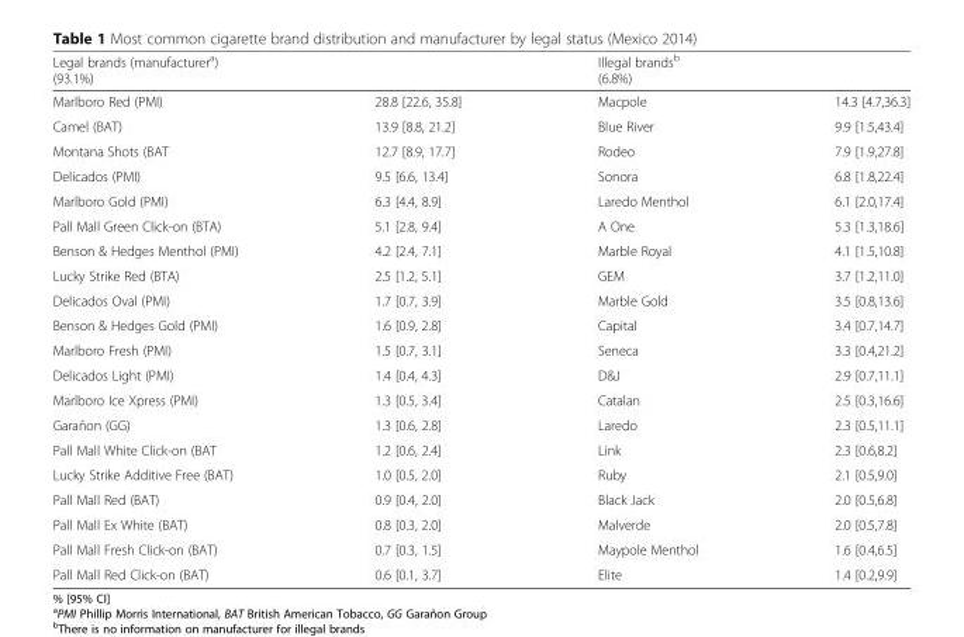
<table><thead><tr><td colspan="2">Legal brands (manufacturer<sup>a</sup>) (93.1%)</td><td colspan="2">Illegal brands<sup>b</sup> (6.8%)</td></tr><tr><td>Marlboro Red (PMI)</td><td>28.8 [22.6, 35.8]</td><td>Macpole</td><td>14.3 [4.7,36.3]</td></tr></thead><tbody><tr><td>Camel (BAT)</td><td>13.9 [8.8, 21.2]</td><td>Blue River</td><td>9.9 [1.5,43.4]</td></tr><tr><td>Montana Shots (BAT</td><td>12.7 [8.9, 17.7]</td><td>Rodeo</td><td>7.9 [1.9,27.8]</td></tr><tr><td>Delicados (PMI)</td><td>9.5 [6.6, 13.4]</td><td>Sonora</td><td>6.8 [1.8,22.4]</td></tr><tr><td>Marlboro Gold (PMI)</td><td>6.3 [4.4, 8.9]</td><td>Laredo Menthol</td><td>6.1 [2.0,17.4]</td></tr><tr><td>Pall Mall Green Click-on (BTA)</td><td>5.1 [2.8, 9.4]</td><td>A One</td><td>5.3 [1.3,18.6]</td></tr><tr><td>Benson &amp; Hedges Menthol (PMI)</td><td>4.2 [2.4, 7.1]</td><td>Marble Royal</td><td>4.1 [1.5,10.8]</td></tr><tr><td>Lucky Strike Red (BTA)</td><td>2.5 [1.2, 5.1]</td><td>GEM</td><td>3.7 [1.2,11.0]</td></tr><tr><td>Delicados Oval (PMI)</td><td>1.7 [0.7, 3.9]</td><td>Marble Gold</td><td>3.5 [0.8,13.6]</td></tr><tr><td>Benson &amp; Hedges Gold (PMI)</td><td>1.6 [0.9, 2.8]</td><td>Capital</td><td>3.4 [0.7,14.7]</td></tr><tr><td>Marlboro Fresh (PMI)</td><td>1.5 [0.7, 3.1]</td><td>Seneca</td><td>3.3 [0.4,21.2]</td></tr><tr><td>Delicados Light (PMI)</td><td>1.4 [0.4, 4.3]</td><td>D&amp;J</td><td>2.9 [0.7,11.1]</td></tr><tr><td>Marlboro Ice Xpress (PMI)</td><td>1.3 [0.5, 3.4]</td><td>Catalan</td><td>2.5 [0.3,16.6]</td></tr><tr><td>Garañon (GG)</td><td>1.3 [0.6, 2.8]</td><td>Laredo</td><td>2.3 [0.5,11.1]</td></tr><tr><td>Pall Mall White Click-on (BAT</td><td>1.2 [0.6, 2.4]</td><td>Link</td><td>2.3 [0.6,8.2]</td></tr><tr><td>Lucky Strike Additive Free (BAT)</td><td>1.0 [0.5, 2.0]</td><td>Ruby</td><td>2.1 [0.5,9.0]</td></tr><tr><td>Pall Mall Red (BAT)</td><td>0.9 [0.4, 2.0]</td><td>Black Jack</td><td>2.0 [0.5,6.8]</td></tr><tr><td>Pall Mall Ex White (BAT)</td><td>0.8 [0.3, 2.0]</td><td>Malverde</td><td>2.0 [0.5,7.8]</td></tr><tr><td>Pall Mall Fresh Click-on (BAT)</td><td>0.7 [0.3, 1.5]</td><td>Maypole Menthol</td><td>1.6 [0.4,6.5]</td></tr><tr><td>Pall Mall Red Click-on (BAT)</td><td>0.6 [0.1, 3.7]</td><td>Elite</td><td>1.4 [0.2,9.9]</td></tr></tbody></table>